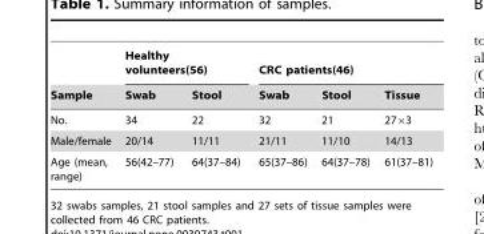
<table><thead><tr><td rowspan="2">Sample</td><td colspan="2">Healthy volunteers(56)</td><td colspan="3">CRC patients(46)</td></tr><tr><td>Swab</td><td>Stool</td><td>Swab</td><td>Stool</td><td>Tissue</td></tr></thead><tbody><tr><td>No.</td><td>34</td><td>22</td><td>32</td><td>21</td><td>27×3</td></tr><tr><td>Male/female</td><td>20/14</td><td>11/11</td><td>21/11</td><td>11/10</td><td>14/13</td></tr><tr><td>Age (mean, range)</td><td>56(42–77)</td><td>64(37–84)</td><td>65(37–86)</td><td>64(37–78)</td><td>61(37–81)</td></tr></tbody></table>